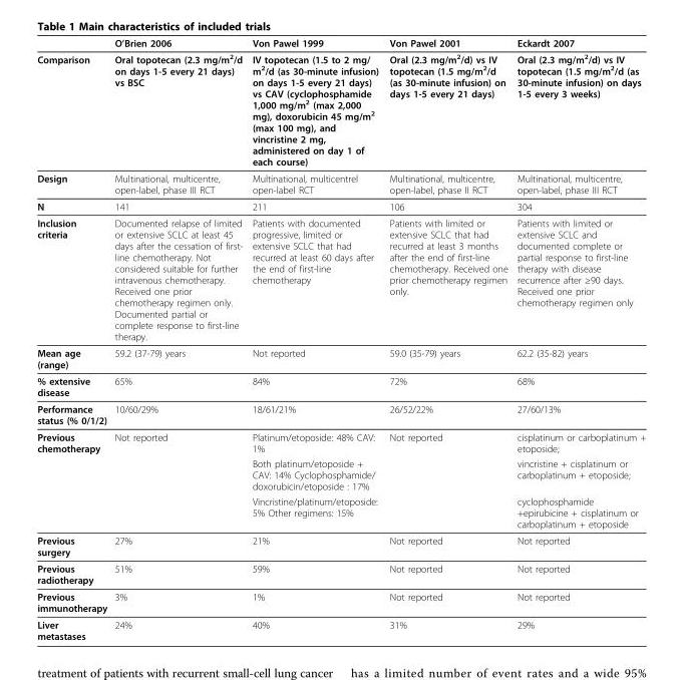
<table><thead><tr><td></td><td>O’Brien 2006</td><td>Von Pawel 1999</td><td>Von Pawel 2001</td><td>Eckardt 2007</td></tr></thead><tbody><tr><td>Comparison</td><td>Oral topotecan (2.3 mg/m<sup>2</sup>/d on days 1-5 every 21 days) vs BSC</td><td>IV topotecan (1.5 to 2 mg/ m<sup>2</sup>/d (as 30-minute infusion) on days 1-5 every 21 days) vs CAV (cyclophosphamide 1,000 mg/m<sup>2</sup> (max 2,000 mg), doxorubicin 45 mg/m<sup>2</sup> (max 100 mg), and vincristine 2 mg, administered on day 1 of each course)</td><td>Oral (2.3 mg/m<sup>2</sup>/d) vs IV topotecan (1.5 mg/m<sup>2</sup>/d (as 30-minute infusion) on days 1-5 every 21 days)</td><td>Oral (2.3 mg/m<sup>2</sup>/d) vs IV topotecan (1.5 mg/m<sup>2</sup>/d (as 30-minute infusion) on days 1-5 every 3 weeks)</td></tr><tr><td>Design</td><td>Multinational, multicentre, open-label, phase III RCT</td><td>Multinational, multicentrel open-label RCT</td><td>Multinational, multicentre, open-label, phase II RCT</td><td>Multinational, multicentre, open-label, phase III RCT</td></tr><tr><td>N</td><td>141</td><td>211</td><td>106</td><td>304</td></tr><tr><td>Inclusion criteria</td><td>Documented relapse of limited or extensive SCLC at least 45 days after the cessation of first- line chemotherapy. Not considered suitable for further intravenous chemotherapy. Received one prior chemotherapy regimen only. Documented partial or complete response to first-line therapy.</td><td>Patients with documented progressive, limited or extensive SCLC that had recurred at least 60 days after the end of first-line chemotherapy</td><td>Patients with limited or extensive SCLC that had recurred at least 3 months after the end of first-line chemotherapy. Received one prior chemotherapy regimen only.</td><td>Patients with limited or extensive SCLC and documented complete or partial response to first-line therapy with disease recurrence after ≥90 days. Received one prior chemotherapy regimen only</td></tr><tr><td>Mean age (range)</td><td>59.2 (37-79) years</td><td>Not reported</td><td>59.0 (35-79) years</td><td>62.2 (35-82) years</td></tr><tr><td>% extensive disease</td><td>65%</td><td>84%</td><td>72%</td><td>68%</td></tr><tr><td>Performance status (% 0/1/2)</td><td>10/60/29%</td><td>18/61/21%</td><td>26/52/22%</td><td>27/60/13%</td></tr><tr><td rowspan="3">Previous chemotherapy</td><td>Not reported</td><td>Platinum/etoposide: 48% CAV: 1%</td><td>Not reported</td><td>cisplatinum or carboplatinum + etoposide;</td></tr><tr><td></td><td>Both platinum/etoposide + CAV: 14% Cyclophosphamide/ doxorubicin/etoposide : 17%</td><td></td><td>vincristine + cisplatinum or carboplatinum + etoposide;</td></tr><tr><td></td><td>Vincristine/platinum/etoposide: 5% Other regimens: 15%</td><td></td><td>cyclophosphamide +epirubicine + cisplatinum or carboplatinum + etoposide</td></tr><tr><td>Previous surgery</td><td>27%</td><td>21%</td><td>Not reported</td><td>Not reported</td></tr><tr><td>Previous radiotherapy</td><td>51%</td><td>59%</td><td>Not reported</td><td>Not reported</td></tr><tr><td>Previous immunotherapy</td><td>3%</td><td>1%</td><td>Not reported</td><td>Not reported</td></tr><tr><td>Liver metastases</td><td>24%</td><td>40%</td><td>31%</td><td>29%</td></tr></tbody></table>